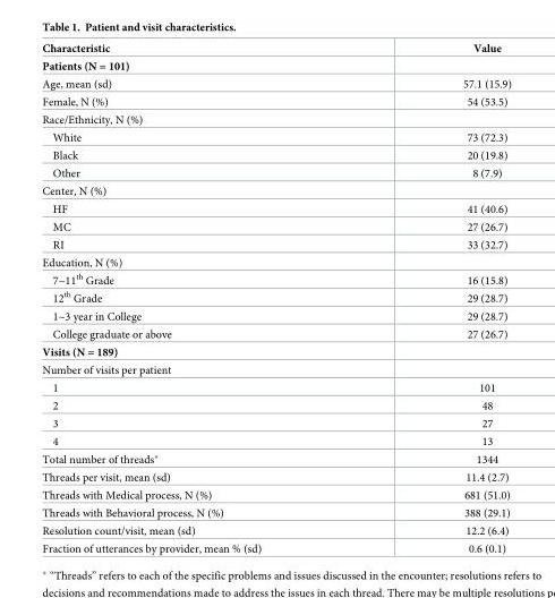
<table><thead><tr><td>Characteristic</td><td>Value</td></tr></thead><tbody><tr><td colspan="2">Patients (N = 101)</td></tr><tr><td>Age, mean (sd)</td><td>57.1 (15.9)</td></tr><tr><td>Female, N (%)</td><td>54 (53.5)</td></tr><tr><td colspan="2">Race/Ethnicity, N (%)</td></tr><tr><td>White</td><td>73 (72.3)</td></tr><tr><td>Black</td><td>20 (19.8)</td></tr><tr><td>Other</td><td>8 (7.9)</td></tr><tr><td colspan="2">Center, N (%)</td></tr><tr><td>HF</td><td>41 (40.6)</td></tr><tr><td>MC</td><td>27 (26.7)</td></tr><tr><td>RI</td><td>33 (32.7)</td></tr><tr><td colspan="2">Education, N (%)</td></tr><tr><td>7~11<sup>th</sup> Grade</td><td>16 (15.8)</td></tr><tr><td>12<sup>th</sup> Grade</td><td>29 (28.7)</td></tr><tr><td>1~3 year in College</td><td>29 (28.7)</td></tr><tr><td>College graduate or above</td><td>27 (26.7)</td></tr><tr><td colspan="2">Visits (N = 189)</td></tr><tr><td colspan="2">Number of visits per patient</td></tr><tr><td>1</td><td>101</td></tr><tr><td>2</td><td>48</td></tr><tr><td>3</td><td>27</td></tr><tr><td>4</td><td>13</td></tr><tr><td>Total number of threads*</td><td>1344</td></tr><tr><td>Threads per visit, mean (sd)</td><td>11.4 (2.7)</td></tr><tr><td>Threads with Medical process, N (%)</td><td>681 (51.0)</td></tr><tr><td>Threads with Behavioral process, N (%)</td><td>388 (29.1)</td></tr><tr><td>Resolution count/visit, mean (sd)</td><td>12.2 (6.4)</td></tr><tr><td>Fraction of utterances by provider, mean % (sd)</td><td>0.6 (0.1)</td></tr></tbody></table>